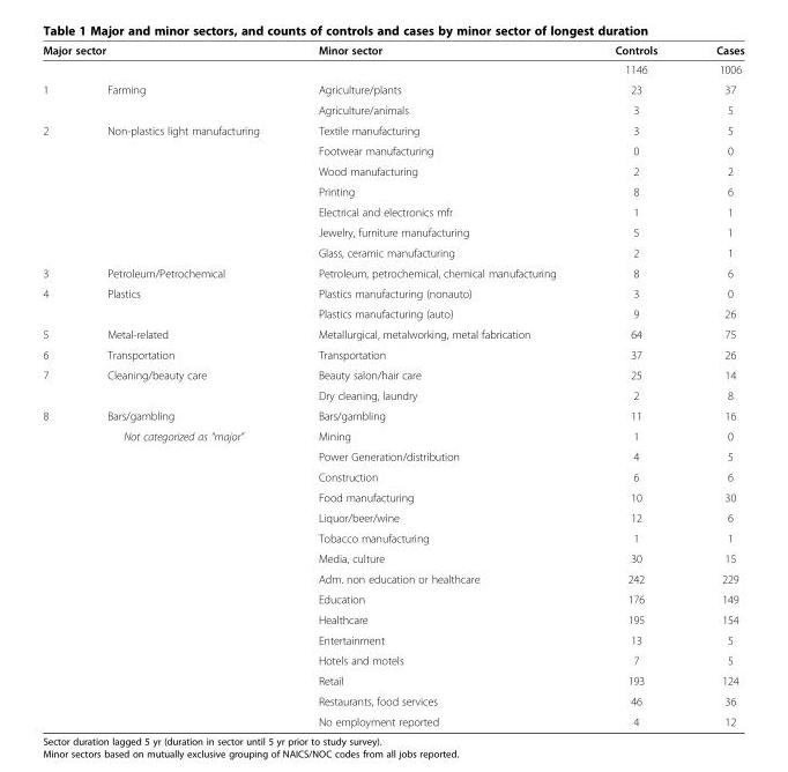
<table><thead><tr><td colspan="2">Major sector</td><td rowspan="2">Minor sector</td><td rowspan="2">Controls 1146</td><td rowspan="2">Cases 1006</td></tr><tr><td></td><td></td></tr></thead><tbody><tr><td rowspan="2">1</td><td rowspan="2">Farming</td><td>Agriculture/plants</td><td>23</td><td>37</td></tr><tr><td>Agriculture/animals</td><td>3</td><td>5</td></tr><tr><td rowspan="7">2</td><td rowspan="7">Non-plastics light manufacturing</td><td>Textile manufacturing</td><td>3</td><td>5</td></tr><tr><td>Footwear manufacturing</td><td>0</td><td>0</td></tr><tr><td>Wood manufacturing</td><td>2</td><td>2</td></tr><tr><td>Printing</td><td>8</td><td>6</td></tr><tr><td>Electrical and electronics mfr</td><td>1</td><td>1</td></tr><tr><td>Jewelry, furniture manufacturing</td><td>5</td><td>1</td></tr><tr><td>Glass, ceramic manufacturing</td><td>2</td><td>1</td></tr><tr><td>3</td><td>Petroleum/Petrochemical</td><td>Petroleum, petrochemical, chemical manufacturing</td><td>8</td><td>6</td></tr><tr><td rowspan="2">4</td><td rowspan="2">Plastics</td><td>Plastics manufacturing (nonauto)</td><td>3</td><td>0</td></tr><tr><td>Plastics manufacturing (auto)</td><td>9</td><td>26</td></tr><tr><td>5</td><td>Metal-related</td><td>Metallurgical, metalworking, metal fabrication</td><td>64</td><td>75</td></tr><tr><td>6</td><td>Transportation</td><td>Transportation</td><td>37</td><td>26</td></tr><tr><td rowspan="2">7</td><td rowspan="2">Cleaning/beauty care</td><td>Beauty salon/hair care</td><td>25</td><td>14</td></tr><tr><td>Dry cleaning, laundry</td><td>2</td><td>8</td></tr><tr><td rowspan="16">8</td><td>Bars/gambling</td><td>Bars/gambling</td><td>11</td><td>16</td></tr><tr><td rowspan="15">Not categorized as “major”</td><td>Mining</td><td>1</td><td>0</td></tr><tr><td>Power Generation/distribution</td><td>4</td><td>5</td></tr><tr><td>Construction</td><td>6</td><td>6</td></tr><tr><td>Food manufacturing</td><td>10</td><td>30</td></tr><tr><td>Liquor/beer/wine</td><td>12</td><td>6</td></tr><tr><td>Tobacco manufacturing</td><td>1</td><td>1</td></tr><tr><td>Media, culture</td><td>30</td><td>15</td></tr><tr><td>Adm. non education or healthcare</td><td>242</td><td>229</td></tr><tr><td>Education</td><td>176</td><td>149</td></tr><tr><td>Healthcare</td><td>195</td><td>154</td></tr><tr><td>Entertainment</td><td>13</td><td>5</td></tr><tr><td>Hotels and motels</td><td>7</td><td>5</td></tr><tr><td>Retail</td><td>193</td><td>124</td></tr><tr><td>Restaurants, food services</td><td>46</td><td>36</td></tr><tr><td>No employment reported</td><td>4</td><td>12</td></tr></tbody></table>